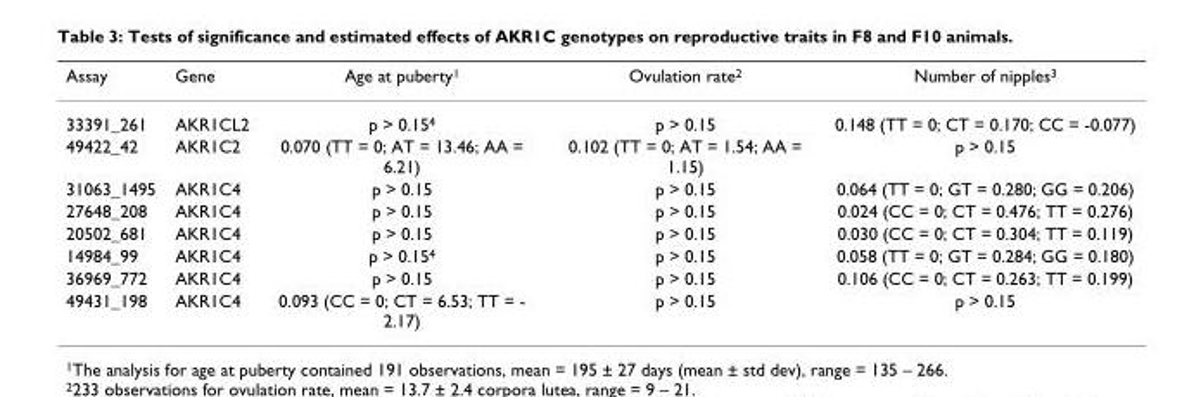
<table><thead><tr><td>Assay</td><td>Gene</td><td>Age at puberty1</td><td>Ovulation rate2</td><td>Number of nipples3</td></tr></thead><tbody><tr><td>33391_261</td><td>AKR1CL2</td><td>p &gt; 0.154</td><td>p &gt; 0.15</td><td>0.148 (TT = 0; CT = 0.170; CC = -0.077)</td></tr><tr><td>49422_42</td><td>AKR1C2</td><td>0.070 (TT = 0; AT = 13.46; AA = 6.21)</td><td>0.102 (TT = 0; AT = 1.54; AA = 1.15)</td><td>p &gt; 0.15</td></tr><tr><td>31063_1495</td><td>AKR1C4</td><td>p &gt; 0.15</td><td>p &gt; 0.15</td><td>0.064 (TT = 0; GT = 0.280; GG = 0.206)</td></tr><tr><td>27648_208</td><td>AKR1C4</td><td>p &gt; 0.15</td><td>p &gt; 0.15</td><td>0.024 (CC = 0; CT = 0.476; TT = 0.276)</td></tr><tr><td>20502_681</td><td>AKR1C4</td><td>p &gt; 0.15</td><td>p &gt; 0.15</td><td>0.030 (CC = 0; CT = 0.304; TT = 0.119)</td></tr><tr><td>14984_99</td><td>AKR1C4</td><td>p &gt; 0.154</td><td>p &gt; 0.15</td><td>0.058 (TT = 0; GT = 0.284; GG = 0.180)</td></tr><tr><td>36969_772</td><td>AKR1C4</td><td>p &gt; 0.15</td><td>p &gt; 0.15</td><td>0.106 (CC = 0; CT = 0.263; TT = 0.199)</td></tr><tr><td>49431_198</td><td>AKR1C4</td><td>0.093 (CC = 0; CT = 6.53; TT = - 2.17)</td><td>p &gt; 0.15</td><td>p &gt; 0.15</td></tr></tbody></table>